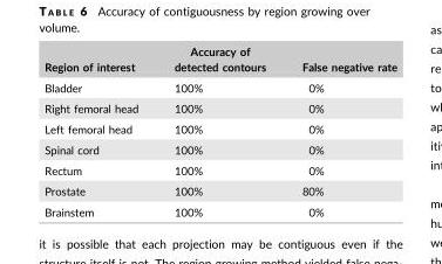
<table><thead><tr><td>Region of interest</td><td>Accuracy of detected contours</td><td>False negative rate</td></tr></thead><tbody><tr><td>Bladder</td><td>100%</td><td>0%</td></tr><tr><td>Right femoral head</td><td>100%</td><td>0%</td></tr><tr><td>Left femoral head</td><td>100%</td><td>0%</td></tr><tr><td>Spinal cord</td><td>100%</td><td>0%</td></tr><tr><td>Rectum</td><td>100%</td><td>0%</td></tr><tr><td>Prostate</td><td>100%</td><td>80%</td></tr><tr><td>Brainstem</td><td>100%</td><td>0%</td></tr></tbody></table>